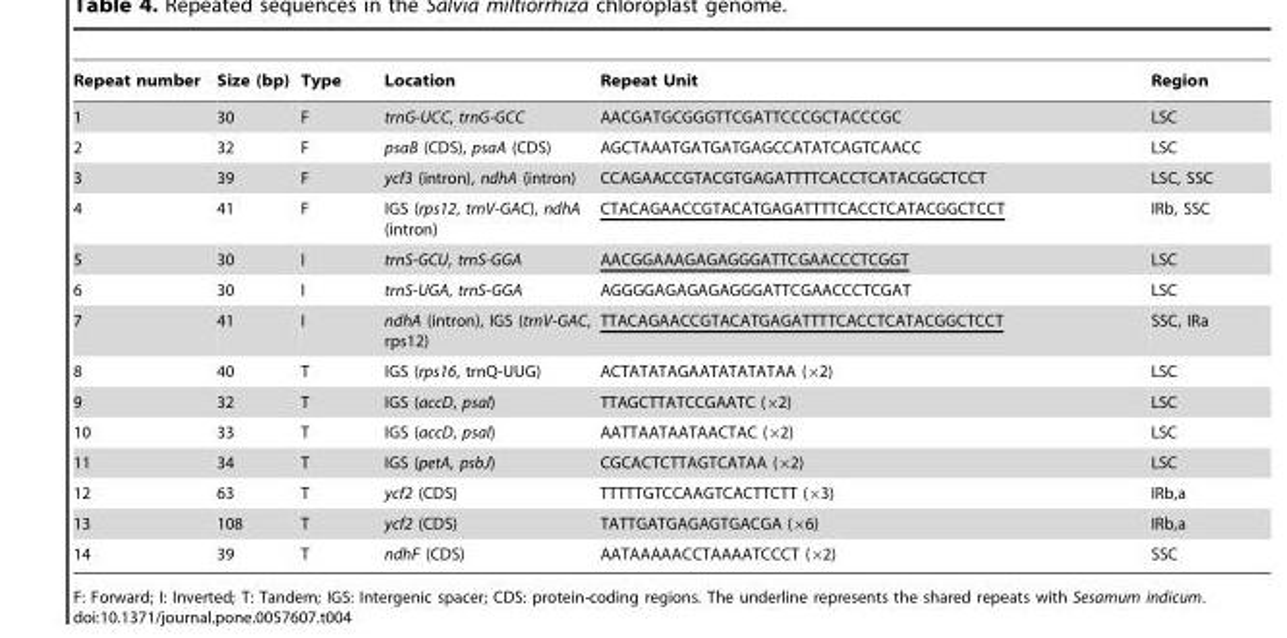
<table><thead><tr><td>Repeat number</td><td>Size (bp)</td><td>Type</td><td>Location</td><td>Repeat Unit</td><td>Region</td></tr></thead><tbody><tr><td>1</td><td>30</td><td>F</td><td>trnG-UCC, trnG-GCC</td><td>AACGATGCGGGTTCGATTCCCGCTACCCGC</td><td>LSC</td></tr><tr><td>2</td><td>32</td><td>F</td><td>psaB (CDS), psaA (CDS)</td><td>AGCTAAATGATGATGAGCCATATCAGTCAACC</td><td>LSC</td></tr><tr><td>3</td><td>39</td><td>F</td><td>ycf3 (intron), ndhA (intron)</td><td>CCAGAACCGTACGTGAGATTTTCACCTCATACGGCTCCT</td><td>LSC, SSC</td></tr><tr><td>4</td><td>41</td><td>F</td><td>IGS (rps12, trnV-GAC), ndhA (intron)</td><td>CTACAGAACCGTACATGAGATTTTCACCTCATACGGCTCCT</td><td>IRb, SSC</td></tr><tr><td>5</td><td>30</td><td>I</td><td>trnS-GCU, trnS-GGA</td><td>AACGGAAAGAGAGGGATTCGAACCCTCGGT</td><td>LSC</td></tr><tr><td>6</td><td>30</td><td>I</td><td>trnS-UGA, trnS-GGA</td><td>AGGGGAGAGAGAGGGATTCGAACCCTCGAT</td><td>LSC</td></tr><tr><td>7</td><td>41</td><td>I</td><td>ndhA (intron), IGS (trnV-GAC, rps12)</td><td>TTACAGAACCGTACATGAGATTTTCACCTCATACGGCTCCT</td><td>SSC, IRa</td></tr><tr><td>8</td><td>40</td><td>T</td><td>IGS (rps16, trnQ-UUG)</td><td>ACTATATAGAATATATATAA (×2)</td><td>LSC</td></tr><tr><td>9</td><td>32</td><td>T</td><td>IGS (accD, psaI)</td><td>TTAGCTTATCCGAATC (×2)</td><td>LSC</td></tr><tr><td>10</td><td>33</td><td>T</td><td>IGS (accD, psaI)</td><td>AATTAATAATAACTAC (×2)</td><td>LSC</td></tr><tr><td>11</td><td>34</td><td>T</td><td>IGS (petA, psbJ)</td><td>CGCACTCTTAGTCATAA (×2)</td><td>LSC</td></tr><tr><td>12</td><td>63</td><td>T</td><td>ycf2 (CDS)</td><td>TTTTTGTCCAAGTCACTTCTT (×3)</td><td>IRb,a</td></tr><tr><td>13</td><td>108</td><td>T</td><td>ycf2 (CDS)</td><td>TATTGATGAGAGTGACGA (×6)</td><td>IRb,a</td></tr><tr><td>14</td><td>39</td><td>T</td><td>ndhF (CDS)</td><td>AATAAAAACCTAAAATCCCT (×2)</td><td>SSC</td></tr></tbody></table>